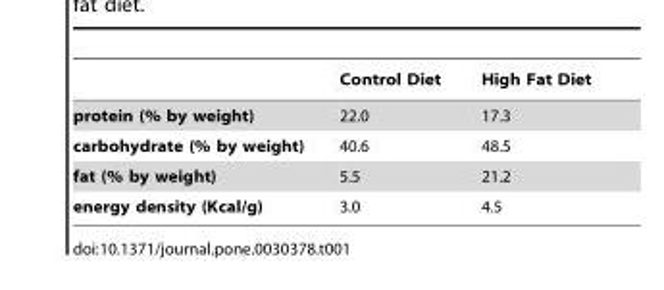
<table><thead><tr><td></td><td>Control Diet</td><td>High Fat Diet</td></tr></thead><tbody><tr><td>protein (% by weight)</td><td>22.0</td><td>17.3</td></tr><tr><td>carbohydrate (% by weight)</td><td>40.6</td><td>48.5</td></tr><tr><td>fat (% by weight)</td><td>5.5</td><td>21.2</td></tr><tr><td>energy density (Kcal/g)</td><td>3.0</td><td>4.5</td></tr></tbody></table>